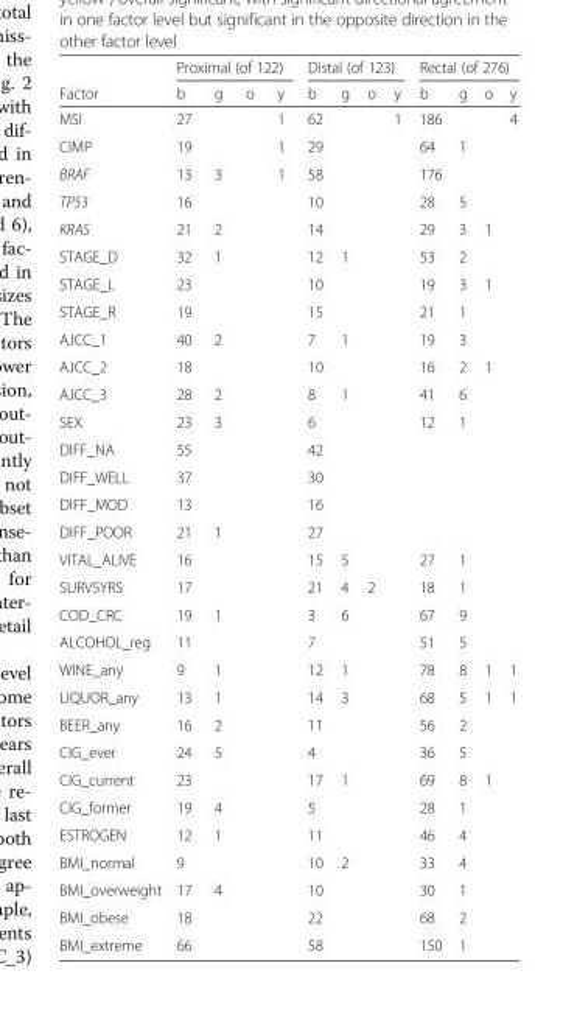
<table><thead><tr><td rowspan="2">Factor</td><td colspan="4">Proximal (of 122)</td><td colspan="4">Distal (of 123)</td><td colspan="4">Rectal (of 276)</td></tr><tr><td>b</td><td>g</td><td>o</td><td>y</td><td>b</td><td>g</td><td>o</td><td>y</td><td>b</td><td>g</td><td>o</td><td>y</td></tr></thead><tbody><tr><td>MSI</td><td>27</td><td></td><td></td><td>1</td><td>62</td><td></td><td></td><td>1</td><td>186</td><td></td><td></td><td>4</td></tr><tr><td>CIMP</td><td>19</td><td></td><td></td><td>1</td><td>29</td><td></td><td></td><td></td><td>64</td><td>1</td><td></td><td></td></tr><tr><td>BRAF</td><td>13</td><td>3</td><td></td><td>1</td><td>58</td><td></td><td></td><td></td><td>176</td><td></td><td></td><td></td></tr><tr><td>TP53</td><td>16</td><td></td><td></td><td></td><td>10</td><td></td><td></td><td></td><td>28</td><td>5</td><td></td><td></td></tr><tr><td>KRAS</td><td>21</td><td>2</td><td></td><td></td><td>14</td><td></td><td></td><td></td><td>29</td><td>3</td><td>1</td><td></td></tr><tr><td>STAGE_D</td><td>32</td><td>1</td><td></td><td></td><td>12</td><td>1</td><td></td><td></td><td>53</td><td>2</td><td></td><td></td></tr><tr><td>STAGE_L</td><td>23</td><td></td><td></td><td></td><td>10</td><td></td><td></td><td></td><td>19</td><td>3</td><td>1</td><td></td></tr><tr><td>STAGE_R</td><td>19</td><td></td><td></td><td></td><td>15</td><td></td><td></td><td></td><td>21</td><td>1</td><td></td><td></td></tr><tr><td>AJCC_1</td><td>40</td><td>2</td><td></td><td></td><td>7</td><td>1</td><td></td><td></td><td>19</td><td>3</td><td></td><td></td></tr><tr><td>AJCC_2</td><td>18</td><td></td><td></td><td></td><td>10</td><td></td><td></td><td></td><td>16</td><td>2</td><td>1</td><td></td></tr><tr><td>AJCC_3</td><td>28</td><td>2</td><td></td><td></td><td>8</td><td>1</td><td></td><td></td><td>41</td><td>6</td><td></td><td></td></tr><tr><td>SEX</td><td>23</td><td>3</td><td></td><td></td><td>6</td><td></td><td></td><td></td><td>12</td><td>1</td><td></td><td></td></tr><tr><td>DIFF_NA</td><td>55</td><td></td><td></td><td></td><td>42</td><td></td><td></td><td></td><td></td><td></td><td></td><td></td></tr><tr><td>DIFF_WELL</td><td>37</td><td></td><td></td><td></td><td>30</td><td></td><td></td><td></td><td></td><td></td><td></td><td></td></tr><tr><td>DIFF_MOD</td><td>13</td><td></td><td></td><td></td><td>16</td><td></td><td></td><td></td><td></td><td></td><td></td><td></td></tr><tr><td>DIFF_POOR</td><td>21</td><td>1</td><td></td><td></td><td>27</td><td></td><td></td><td></td><td></td><td></td><td></td><td></td></tr><tr><td>VITAL_ALIVE</td><td>16</td><td></td><td></td><td></td><td>15</td><td>5</td><td></td><td></td><td>27</td><td>1</td><td></td><td></td></tr><tr><td>SURV5YRS</td><td>17</td><td></td><td></td><td></td><td>21</td><td>4</td><td>2</td><td></td><td>18</td><td>1</td><td></td><td></td></tr><tr><td>COD_CRC</td><td>19</td><td>1</td><td></td><td></td><td>3</td><td>6</td><td></td><td></td><td>67</td><td>9</td><td></td><td></td></tr><tr><td>ALCOHOL_reg</td><td>11</td><td></td><td></td><td></td><td>7</td><td></td><td></td><td></td><td>51</td><td>5</td><td></td><td></td></tr><tr><td>WINE_any</td><td>9</td><td>1</td><td></td><td></td><td>12</td><td>1</td><td></td><td></td><td>78</td><td>8</td><td>1</td><td>1</td></tr><tr><td>LIQUOR_any</td><td>13</td><td>1</td><td></td><td></td><td>14</td><td>3</td><td></td><td></td><td>68</td><td>5</td><td>1</td><td>1</td></tr><tr><td>BEER_any</td><td>16</td><td>2</td><td></td><td></td><td>11</td><td></td><td></td><td></td><td>56</td><td>2</td><td></td><td></td></tr><tr><td>CIG_ever</td><td>24</td><td>5</td><td></td><td></td><td>4</td><td></td><td></td><td></td><td>36</td><td>5</td><td></td><td></td></tr><tr><td>CIG_current</td><td>23</td><td></td><td></td><td></td><td>17</td><td>1</td><td></td><td></td><td>69</td><td>8</td><td>1</td><td></td></tr><tr><td>CIG_former</td><td>19</td><td>4</td><td></td><td></td><td>5</td><td></td><td></td><td></td><td>28</td><td>1</td><td></td><td></td></tr><tr><td>ESTROGEN</td><td>12</td><td>1</td><td></td><td></td><td>11</td><td></td><td></td><td></td><td>46</td><td>4</td><td></td><td></td></tr><tr><td>BMI_normal</td><td>9</td><td></td><td></td><td></td><td>10</td><td>2</td><td></td><td></td><td>33</td><td>4</td><td></td><td></td></tr><tr><td>BMI_overweight</td><td>17</td><td>4</td><td></td><td></td><td>10</td><td></td><td></td><td></td><td>30</td><td>1</td><td></td><td></td></tr><tr><td>BMI_obese</td><td>18</td><td></td><td></td><td></td><td>22</td><td></td><td></td><td></td><td>68</td><td>2</td><td></td><td></td></tr><tr><td>BMI_extreme</td><td>66</td><td></td><td></td><td></td><td>58</td><td></td><td></td><td></td><td>150</td><td>1</td><td></td><td></td></tr></tbody></table>